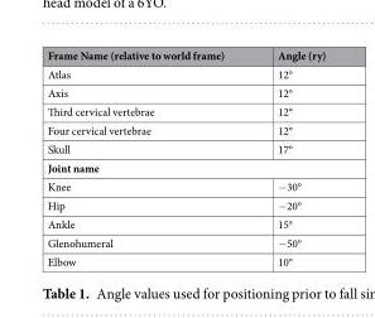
<table><thead><tr><td>Frame Name (relative to world frame)</td><td>Angle (ry)</td></tr></thead><tbody><tr><td>Atlas</td><td>12°</td></tr><tr><td>Axis</td><td>12°</td></tr><tr><td>Third cervical vertebrae</td><td>12°</td></tr><tr><td>Four cervical vertebrae</td><td>12°</td></tr><tr><td>Skull</td><td>17°</td></tr><tr><td colspan="2">Joint name</td></tr><tr><td>Knee</td><td>−30°</td></tr><tr><td>Hip</td><td>−20°</td></tr><tr><td>Ankle</td><td>15°</td></tr><tr><td>Glenohumeral</td><td>−50°</td></tr><tr><td>Elbow</td><td>10°</td></tr></tbody></table>